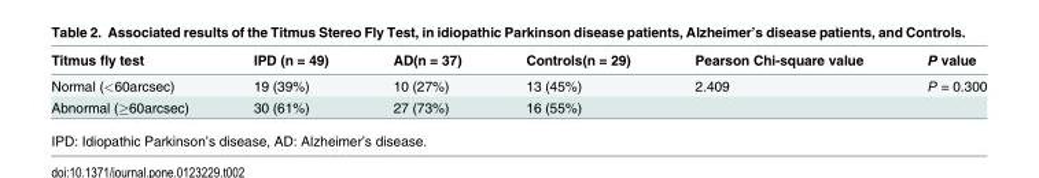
<table><thead><tr><td>Titmus fly test</td><td>IPD (n = 49)</td><td>AD(n = 37)</td><td>Controls(n = 29)</td><td>Pearson Chi-square value</td><td>P value</td></tr></thead><tbody><tr><td>Normal (&lt;60arcsec)</td><td>19 (39%)</td><td>10 (27%)</td><td>13 (45%)</td><td>2.409</td><td>P = 0.300</td></tr><tr><td>Abnormal (≥60arcsec)</td><td>30 (61%)</td><td>27 (73%)</td><td>16 (55%)</td><td></td><td></td></tr></tbody></table>